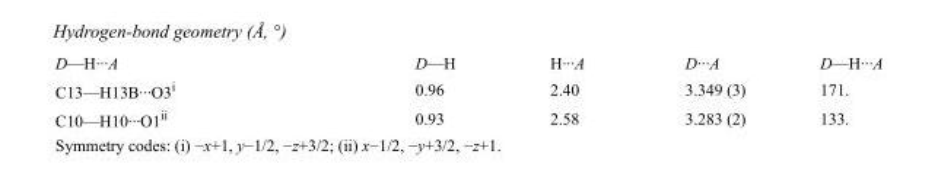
<table><tbody><tr><td>D—H···A</td><td>D—H</td><td>H···A</td><td>D···A</td><td>D—H···A</td></tr><tr><td>C13—H13B···O3<sup>i</sup></td><td>0.96</td><td>2.40</td><td>3.349 (3)</td><td>171.</td></tr><tr><td>C10—H10···O1<sup>ii</sup></td><td>0.93</td><td>2.58</td><td>3.283 (2)</td><td>133.</td></tr></tbody></table>